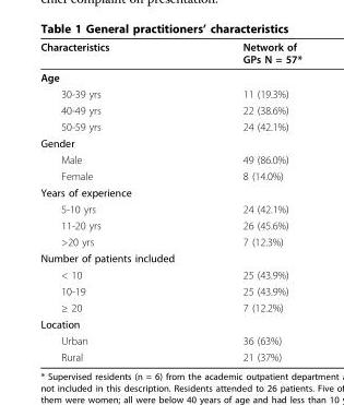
<table><thead><tr><td>Characteristics</td><td>Network of GPs N = 57*</td></tr></thead><tbody><tr><td colspan="2">Age</td></tr><tr><td>30-39 yrs</td><td>11 (19.3%)</td></tr><tr><td>40-49 yrs</td><td>22 (38.6%)</td></tr><tr><td>50-59 yrs</td><td>24 (42.1%)</td></tr><tr><td colspan="2">Gender</td></tr><tr><td>Male</td><td>49 (86.0%)</td></tr><tr><td>Female</td><td>8 (14.0%)</td></tr><tr><td colspan="2">Years of experience</td></tr><tr><td>5-10 yrs</td><td>24 (42.1%)</td></tr><tr><td>11-20 yrs</td><td>26 (45.6%)</td></tr><tr><td>&gt;20 yrs</td><td>7 (12.3%)</td></tr><tr><td colspan="2">Number of patients included</td></tr><tr><td>&lt; 10</td><td>25 (43.9%)</td></tr><tr><td>10-19</td><td>25 (43.9%)</td></tr><tr><td>≥ 20</td><td>7 (12.2%)</td></tr><tr><td colspan="2">Location</td></tr><tr><td>Urban</td><td>36 (63%)</td></tr><tr><td>Rural</td><td>21 (37%)</td></tr></tbody></table>